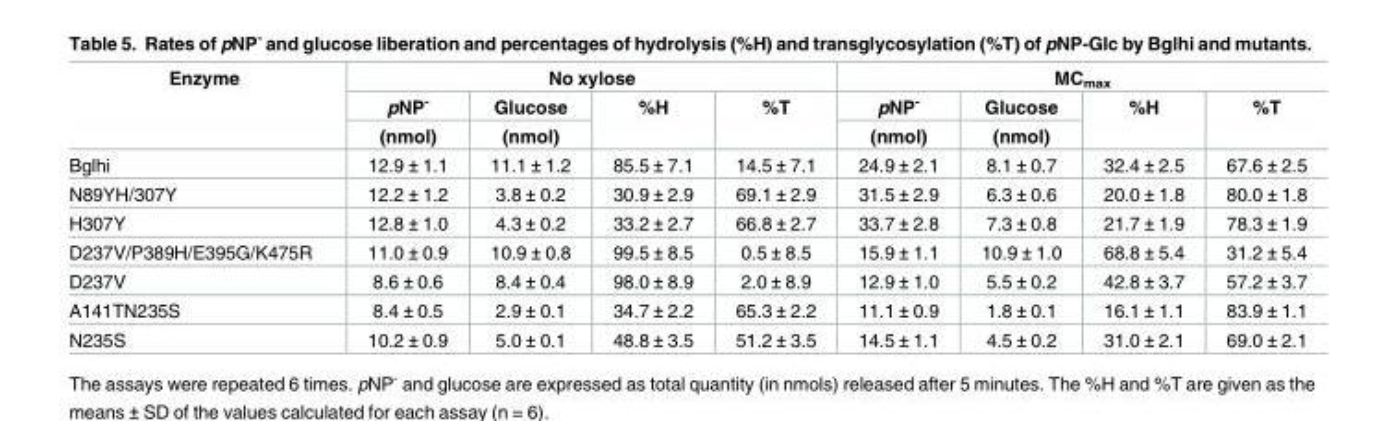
<table><thead><tr><td rowspan="3">Enzyme</td><td colspan="4">No xylose</td><td colspan="4">MC<sub>max</sub></td></tr><tr><td rowspan="2">pNP<sup>-</sup> (nmol)</td><td rowspan="2">Glucose (nmol)</td><td rowspan="2">%H</td><td rowspan="2">%T</td><td rowspan="2">pNP<sup>-</sup> (nmol)</td><td rowspan="2">Glucose (nmol)</td><td rowspan="2">%H</td><td rowspan="2">%T</td></tr><tr></tr></thead><tbody><tr><td>Bglhi</td><td>12.9 ± 1.1</td><td>11.1 ± 1.2</td><td>85.5 ± 7.1</td><td>14.5 ± 7.1</td><td>24.9 ± 2.1</td><td>8.1 ± 0.7</td><td>32.4 ± 2.5</td><td>67.6 ± 2.5</td></tr><tr><td>N89YH/307Y</td><td>12.2 ± 1.2</td><td>3.8 ± 0.2</td><td>30.9 ± 2.9</td><td>69.1 ± 2.9</td><td>31.5 ± 2.9</td><td>6.3 ± 0.6</td><td>20.0 ± 1.8</td><td>80.0 ± 1.8</td></tr><tr><td>H307Y</td><td>12.8 ± 1.0</td><td>4.3 ± 0.2</td><td>33.2 ± 2.7</td><td>66.8 ± 2.7</td><td>33.7 ± 2.8</td><td>7.3 ± 0.8</td><td>21.7 ± 1.9</td><td>78.3 ± 1.9</td></tr><tr><td>D237V/P389H/E395G/K475R</td><td>11.0 ± 0.9</td><td>10.9 ± 0.8</td><td>99.5 ± 8.5</td><td>0.5 ± 8.5</td><td>15.9 ± 1.1</td><td>10.9 ± 1.0</td><td>68.8 ± 5.4</td><td>31.2 ± 5.4</td></tr><tr><td>D237V</td><td>8.6 ± 0.6</td><td>8.4 ± 0.4</td><td>98.0 ± 8.9</td><td>2.0 ± 8.9</td><td>12.9 ± 1.0</td><td>5.5 ± 0.2</td><td>42.8 ± 3.7</td><td>57.2 ± 3.7</td></tr><tr><td>A141TN235S</td><td>8.4 ± 0.5</td><td>2.9 ± 0.1</td><td>34.7 ± 2.2</td><td>65.3 ± 2.2</td><td>11.1 ± 0.9</td><td>1.8 ± 0.1</td><td>16.1 ± 1.1</td><td>83.9 ± 1.1</td></tr><tr><td>N235S</td><td>10.2 ± 0.9</td><td>5.0 ± 0.1</td><td>48.8 ± 3.5</td><td>51.2 ± 3.5</td><td>14.5 ± 1.1</td><td>4.5 ± 0.2</td><td>31.0 ± 2.1</td><td>69.0 ± 2.1</td></tr></tbody></table>